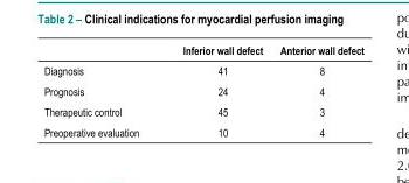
<table><thead><tr><td></td><td>Inferior wall defect</td><td>Anterior wall defect</td></tr></thead><tbody><tr><td>Diagnosis</td><td>41</td><td>8</td></tr><tr><td>Prognosis</td><td>24</td><td>4</td></tr><tr><td>Therapeutic control</td><td>45</td><td>3</td></tr><tr><td>Preoperative evaluation</td><td>10</td><td>4</td></tr></tbody></table>